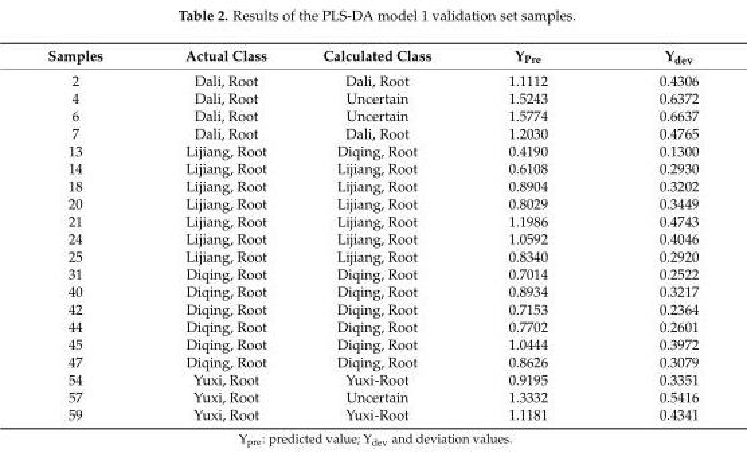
<table><thead><tr><td>Samples</td><td>Actual Class</td><td>Calculated Class</td><td>Y<sub>Pre</sub></td><td>Y<sub>dev</sub></td></tr></thead><tbody><tr><td>2</td><td>Dali, Root</td><td>Dali, Root</td><td>1.1112</td><td>0.4306</td></tr><tr><td>4</td><td>Dali, Root</td><td>Uncertain</td><td>1.5243</td><td>0.6372</td></tr><tr><td>6</td><td>Dali, Root</td><td>Uncertain</td><td>1.5774</td><td>0.6637</td></tr><tr><td>7</td><td>Dali, Root</td><td>Dali, Root</td><td>1.2030</td><td>0.4765</td></tr><tr><td>13</td><td>Lijiang, Root</td><td>Diqing, Root</td><td>0.4190</td><td>0.1300</td></tr><tr><td>14</td><td>Lijiang, Root</td><td>Lijiang, Root</td><td>0.6108</td><td>0.2930</td></tr><tr><td>18</td><td>Lijiang, Root</td><td>Lijiang, Root</td><td>0.8904</td><td>0.3202</td></tr><tr><td>20</td><td>Lijiang, Root</td><td>Lijiang, Root</td><td>0.8029</td><td>0.3449</td></tr><tr><td>21</td><td>Lijiang, Root</td><td>Lijiang, Root</td><td>1.1986</td><td>0.4743</td></tr><tr><td>24</td><td>Lijiang, Root</td><td>Lijiang, Root</td><td>1.0592</td><td>0.4046</td></tr><tr><td>25</td><td>Lijiang, Root</td><td>Lijiang, Root</td><td>0.8340</td><td>0.2920</td></tr><tr><td>31</td><td>Diqing, Root</td><td>Diqing, Root</td><td>0.7014</td><td>0.2522</td></tr><tr><td>40</td><td>Diqing, Root</td><td>Diqing, Root</td><td>0.8934</td><td>0.3217</td></tr><tr><td>42</td><td>Diqing, Root</td><td>Diqing, Root</td><td>0.7153</td><td>0.2364</td></tr><tr><td>44</td><td>Diqing, Root</td><td>Diqing, Root</td><td>0.7702</td><td>0.2601</td></tr><tr><td>45</td><td>Diqing, Root</td><td>Diqing, Root</td><td>1.0444</td><td>0.3972</td></tr><tr><td>47</td><td>Diqing, Root</td><td>Diqing, Root</td><td>0.8626</td><td>0.3079</td></tr><tr><td>54</td><td>Yuxi, Root</td><td>Yuxi-Root</td><td>0.9195</td><td>0.3351</td></tr><tr><td>57</td><td>Yuxi, Root</td><td>Uncertain</td><td>1.3332</td><td>0.5416</td></tr><tr><td>59</td><td>Yuxi, Root</td><td>Yuxi-Root</td><td>1.1181</td><td>0.4341</td></tr></tbody></table>